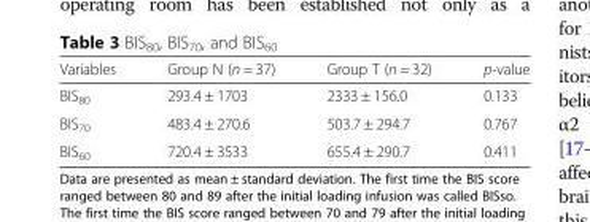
<table><thead><tr><td>Variables</td><td>Group N (n = 37)</td><td>Group T (n = 32)</td><td>p-value</td></tr></thead><tbody><tr><td>BIS<sub>80</sub></td><td>293.4 ± 1703</td><td>2333 ± 156.0</td><td>0.133</td></tr><tr><td>BIS<sub>70</sub></td><td>483.4 ± 270.6</td><td>503.7 ± 294.7</td><td>0.767</td></tr><tr><td>BIS<sub>60</sub></td><td>720.4 ± 3533</td><td>655.4 ± 290.7</td><td>0.411</td></tr></tbody></table>